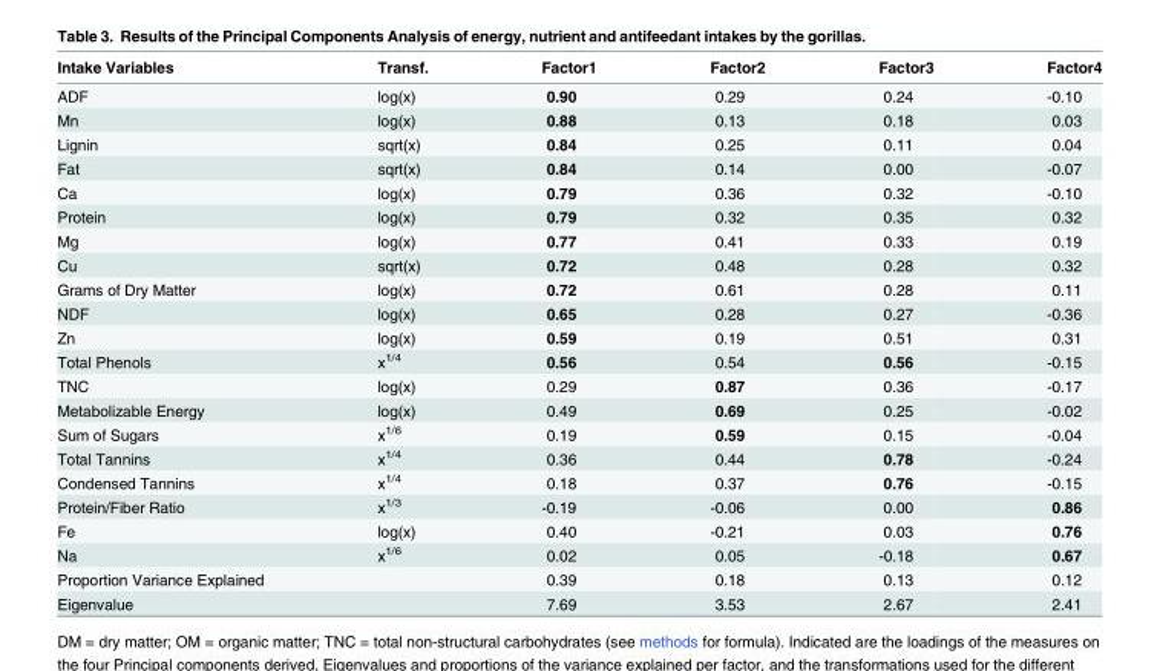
<table><thead><tr><td>Intake Variables</td><td>Transf.</td><td>Factor1</td><td>Factor2</td><td>Factor3</td><td>Factor4</td></tr></thead><tbody><tr><td>ADF</td><td>log(x)</td><td>0.90</td><td>0.29</td><td>0.24</td><td>-0.10</td></tr><tr><td>Mn</td><td>log(x)</td><td>0.88</td><td>0.13</td><td>0.18</td><td>0.03</td></tr><tr><td>Lignin</td><td>sqrt(x)</td><td>0.84</td><td>0.25</td><td>0.11</td><td>0.04</td></tr><tr><td>Fat</td><td>sqrt(x)</td><td>0.84</td><td>0.14</td><td>0.00</td><td>-0.07</td></tr><tr><td>Ca</td><td>log(x)</td><td>0.79</td><td>0.36</td><td>0.32</td><td>-0.10</td></tr><tr><td>Protein</td><td>log(x)</td><td>0.79</td><td>0.32</td><td>0.35</td><td>0.32</td></tr><tr><td>Mg</td><td>log(x)</td><td>0.77</td><td>0.41</td><td>0.33</td><td>0.19</td></tr><tr><td>Cu</td><td>sqrt(x)</td><td>0.72</td><td>0.48</td><td>0.28</td><td>0.32</td></tr><tr><td>Grams of Dry Matter</td><td>log(x)</td><td>0.72</td><td>0.61</td><td>0.28</td><td>0.11</td></tr><tr><td>NDF</td><td>log(x)</td><td>0.65</td><td>0.28</td><td>0.27</td><td>-0.36</td></tr><tr><td>Zn</td><td>log(x)</td><td>0.59</td><td>0.19</td><td>0.51</td><td>0.31</td></tr><tr><td>Total Phenols</td><td>x<sup>1/4</sup></td><td>0.56</td><td>0.54</td><td>0.56</td><td>-0.15</td></tr><tr><td>TNC</td><td>log(x)</td><td>0.29</td><td>0.87</td><td>0.36</td><td>-0.17</td></tr><tr><td>Metabolizable Energy</td><td>log(x)</td><td>0.49</td><td>0.69</td><td>0.25</td><td>-0.02</td></tr><tr><td>Sum of Sugars</td><td>x<sup>1/6</sup></td><td>0.19</td><td>0.59</td><td>0.15</td><td>-0.04</td></tr><tr><td>Total Tannins</td><td>x<sup>1/4</sup></td><td>0.36</td><td>0.44</td><td>0.78</td><td>-0.24</td></tr><tr><td>Condensed Tannins</td><td>x<sup>1/4</sup></td><td>0.18</td><td>0.37</td><td>0.76</td><td>-0.15</td></tr><tr><td>Protein/Fiber Ratio</td><td>x<sup>1/3</sup></td><td>-0.19</td><td>-0.06</td><td>0.00</td><td>0.86</td></tr><tr><td>Fe</td><td>log(x)</td><td>0.40</td><td>-0.21</td><td>0.03</td><td>0.76</td></tr><tr><td>Na</td><td>x<sup>1/6</sup></td><td>0.02</td><td>0.05</td><td>-0.18</td><td>0.67</td></tr><tr><td>Proportion Variance Explained</td><td></td><td>0.39</td><td>0.18</td><td>0.13</td><td>0.12</td></tr><tr><td>Eigenvalue</td><td></td><td>7.69</td><td>3.53</td><td>2.67</td><td>2.41</td></tr></tbody></table>